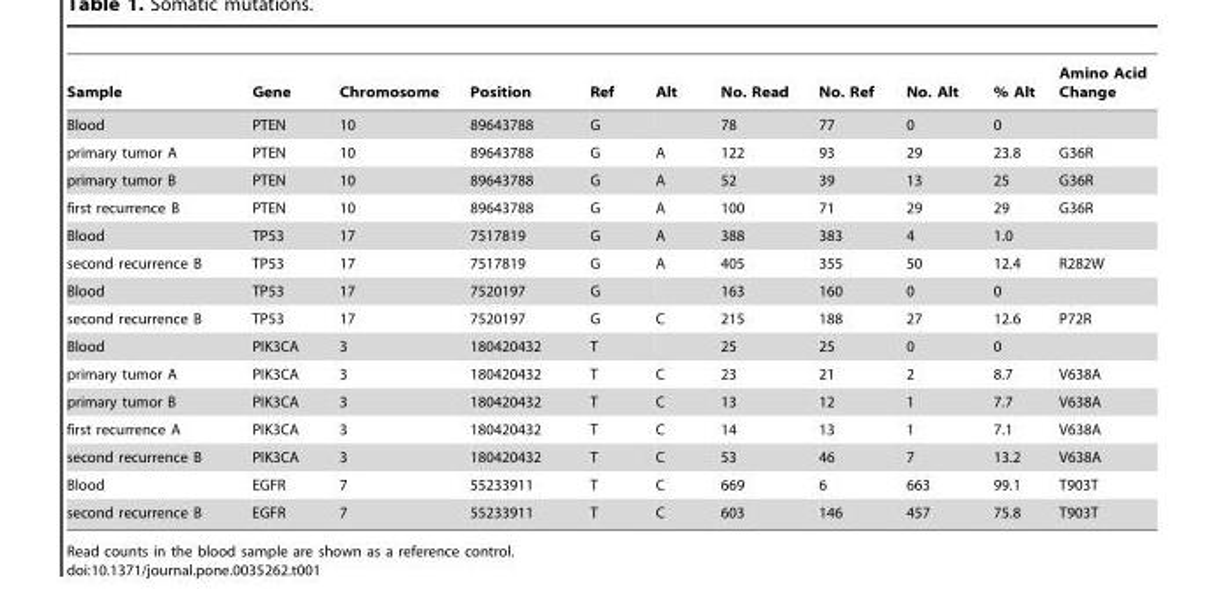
<table><thead><tr><td>Sample</td><td>Gene</td><td>Chromosome</td><td>Position</td><td>Ref</td><td>Alt</td><td>No. Read</td><td>No. Ref</td><td>No. Alt</td><td>% Alt</td><td>Amino Acid Change</td></tr></thead><tbody><tr><td>Blood</td><td>PTEN</td><td>10</td><td>89643788</td><td>G</td><td></td><td>78</td><td>77</td><td>0</td><td>0</td><td></td></tr><tr><td>primary tumor A</td><td>PTEN</td><td>10</td><td>89643788</td><td>G</td><td>A</td><td>122</td><td>93</td><td>29</td><td>23.8</td><td>G36R</td></tr><tr><td>primary tumor B</td><td>PTEN</td><td>10</td><td>89643788</td><td>G</td><td>A</td><td>52</td><td>39</td><td>13</td><td>25</td><td>G36R</td></tr><tr><td>first recurrence B</td><td>PTEN</td><td>10</td><td>89643788</td><td>G</td><td>A</td><td>100</td><td>71</td><td>29</td><td>29</td><td>G36R</td></tr><tr><td>Blood</td><td>TP53</td><td>17</td><td>7517819</td><td>G</td><td>A</td><td>388</td><td>383</td><td>4</td><td>1.0</td><td></td></tr><tr><td>second recurrence B</td><td>TP53</td><td>17</td><td>7517819</td><td>G</td><td>A</td><td>405</td><td>355</td><td>50</td><td>12.4</td><td>R282W</td></tr><tr><td>Blood</td><td>TP53</td><td>17</td><td>7520197</td><td>G</td><td></td><td>163</td><td>160</td><td>0</td><td>0</td><td></td></tr><tr><td>second recurrence B</td><td>TP53</td><td>17</td><td>7520197</td><td>G</td><td>C</td><td>215</td><td>188</td><td>27</td><td>12.6</td><td>P72R</td></tr><tr><td>Blood</td><td>PIK3CA</td><td>3</td><td>180420432</td><td>T</td><td></td><td>25</td><td>25</td><td>0</td><td>0</td><td></td></tr><tr><td>primary tumor A</td><td>PIK3CA</td><td>3</td><td>180420432</td><td>T</td><td>C</td><td>23</td><td>21</td><td>2</td><td>8.7</td><td>V638A</td></tr><tr><td>primary tumor B</td><td>PIK3CA</td><td>3</td><td>180420432</td><td>T</td><td>C</td><td>13</td><td>12</td><td>1</td><td>7.7</td><td>V638A</td></tr><tr><td>first recurrence A</td><td>PIK3CA</td><td>3</td><td>180420432</td><td>T</td><td>C</td><td>14</td><td>13</td><td>1</td><td>7.1</td><td>V638A</td></tr><tr><td>second recurrence B</td><td>PIK3CA</td><td>3</td><td>180420432</td><td>T</td><td>C</td><td>53</td><td>46</td><td>7</td><td>13.2</td><td>V638A</td></tr><tr><td>Blood</td><td>EGFR</td><td>7</td><td>55233911</td><td>T</td><td>C</td><td>669</td><td>6</td><td>663</td><td>99.1</td><td>T903T</td></tr><tr><td>second recurrence B</td><td>EGFR</td><td>7</td><td>55233911</td><td>T</td><td>C</td><td>603</td><td>146</td><td>457</td><td>75.8</td><td>T903T</td></tr></tbody></table>